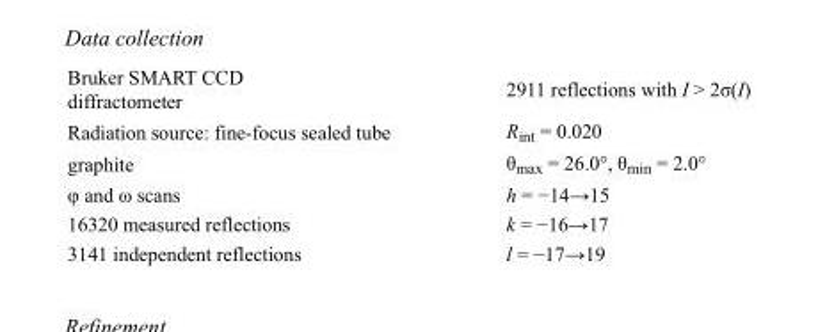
<table><tbody><tr><td>Bruker SMART CCD diffractometer</td><td>2911 reflections with I &gt; 2σ(I)</td></tr><tr><td>Radiation source: fine-focus sealed tube</td><td>R<sub>int</sub> = 0.020</td></tr><tr><td>graphite</td><td>θ<sub>max</sub> = 26.0°, θ<sub>min</sub> = 2.0°</td></tr><tr><td>φ and ω scans</td><td>h = −14→15</td></tr><tr><td>16320 measured reflections</td><td>k = −16→17</td></tr><tr><td>3141 independent reflections</td><td>l = −17→19</td></tr></tbody></table>